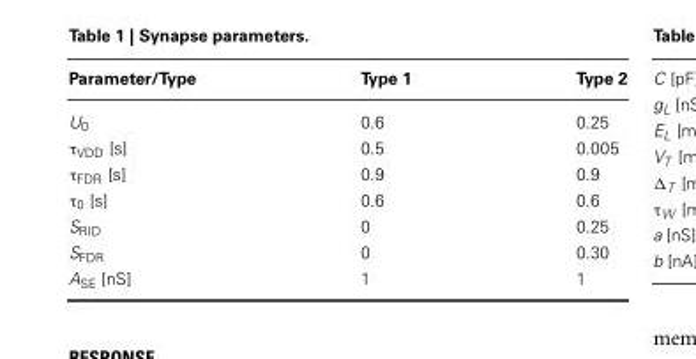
<table><thead><tr><td>Parameter/Type</td><td>Type 1</td><td>Type 2</td></tr></thead><tbody><tr><td>U<sub>0</sub></td><td>0.6</td><td>0.25</td></tr><tr><td>τ<sub>VDD</sub> [s]</td><td>0.5</td><td>0.005</td></tr><tr><td>τ<sub>FDR</sub> [s]</td><td>0.9</td><td>0.9</td></tr><tr><td>τ<sub>0</sub> [s]</td><td>0.6</td><td>0.6</td></tr><tr><td>S<sub>RID</sub></td><td>0</td><td>0.25</td></tr><tr><td>S<sub>FDR</sub></td><td>0</td><td>0.30</td></tr><tr><td>A<sub>SE</sub> [nS]</td><td>1</td><td>1</td></tr></tbody></table>